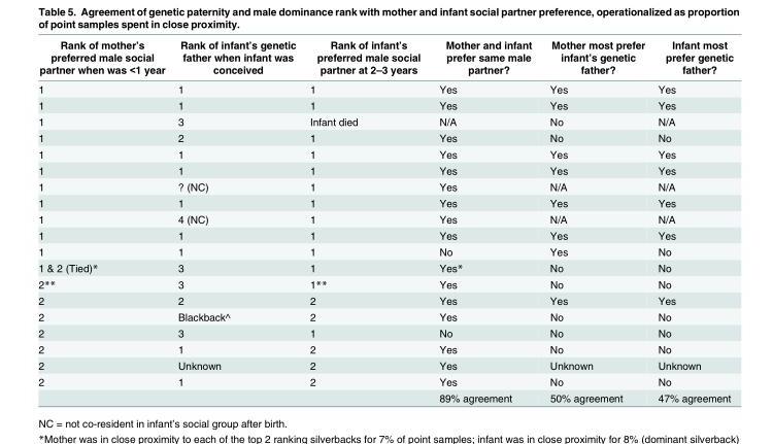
<table><thead><tr><td>Rank of mother’s preferred male social partner when was &lt;1 year</td><td>Rank of infant’s genetic father when infant was conceived</td><td>Rank of infant’s preferred male social partner at 2–3 years</td><td>Mother and infant prefer same male partner?</td><td>Mother most prefer infant’s genetic father?</td><td>Infant most prefer genetic father?</td></tr></thead><tbody><tr><td>1</td><td>1</td><td>1</td><td>Yes</td><td>Yes</td><td>Yes</td></tr><tr><td>1</td><td>1</td><td>1</td><td>Yes</td><td>Yes</td><td>Yes</td></tr><tr><td>1</td><td>3</td><td>Infant died</td><td>N/A</td><td>No</td><td>N/A</td></tr><tr><td>1</td><td>2</td><td>1</td><td>Yes</td><td>No</td><td>No</td></tr><tr><td>1</td><td>1</td><td>1</td><td>Yes</td><td>Yes</td><td>Yes</td></tr><tr><td>1</td><td>1</td><td>1</td><td>Yes</td><td>Yes</td><td>Yes</td></tr><tr><td>1</td><td>? (NC)</td><td>1</td><td>Yes</td><td>N/A</td><td>N/A</td></tr><tr><td>1</td><td>1</td><td>1</td><td>Yes</td><td>Yes</td><td>Yes</td></tr><tr><td>1</td><td>4 (NC)</td><td>1</td><td>Yes</td><td>N/A</td><td>N/A</td></tr><tr><td>1</td><td>1</td><td>1</td><td>Yes</td><td>Yes</td><td>Yes</td></tr><tr><td>1</td><td>1</td><td>1</td><td>No</td><td>Yes</td><td>No</td></tr><tr><td>1 &amp; 2 (Tied)*</td><td>3</td><td>1</td><td>Yes*</td><td>No</td><td>No</td></tr><tr><td>2**</td><td>3</td><td>1**</td><td>Yes</td><td>No</td><td>No</td></tr><tr><td>2</td><td>2</td><td>2</td><td>Yes</td><td>Yes</td><td>Yes</td></tr><tr><td>2</td><td>Blackback^</td><td>2</td><td>Yes</td><td>No</td><td>No</td></tr><tr><td>2</td><td>3</td><td>1</td><td>No</td><td>No</td><td>No</td></tr><tr><td>2</td><td>1</td><td>2</td><td>Yes</td><td>No</td><td>No</td></tr><tr><td>2</td><td>Unknown</td><td>2</td><td>Yes</td><td>Unknown</td><td>Unknown</td></tr><tr><td>2</td><td>1</td><td>2</td><td>Yes</td><td>No</td><td>No</td></tr><tr><td colspan="3"></td><td>89% agreement</td><td>50% agreement</td><td>47% agreement</td></tr></tbody></table>